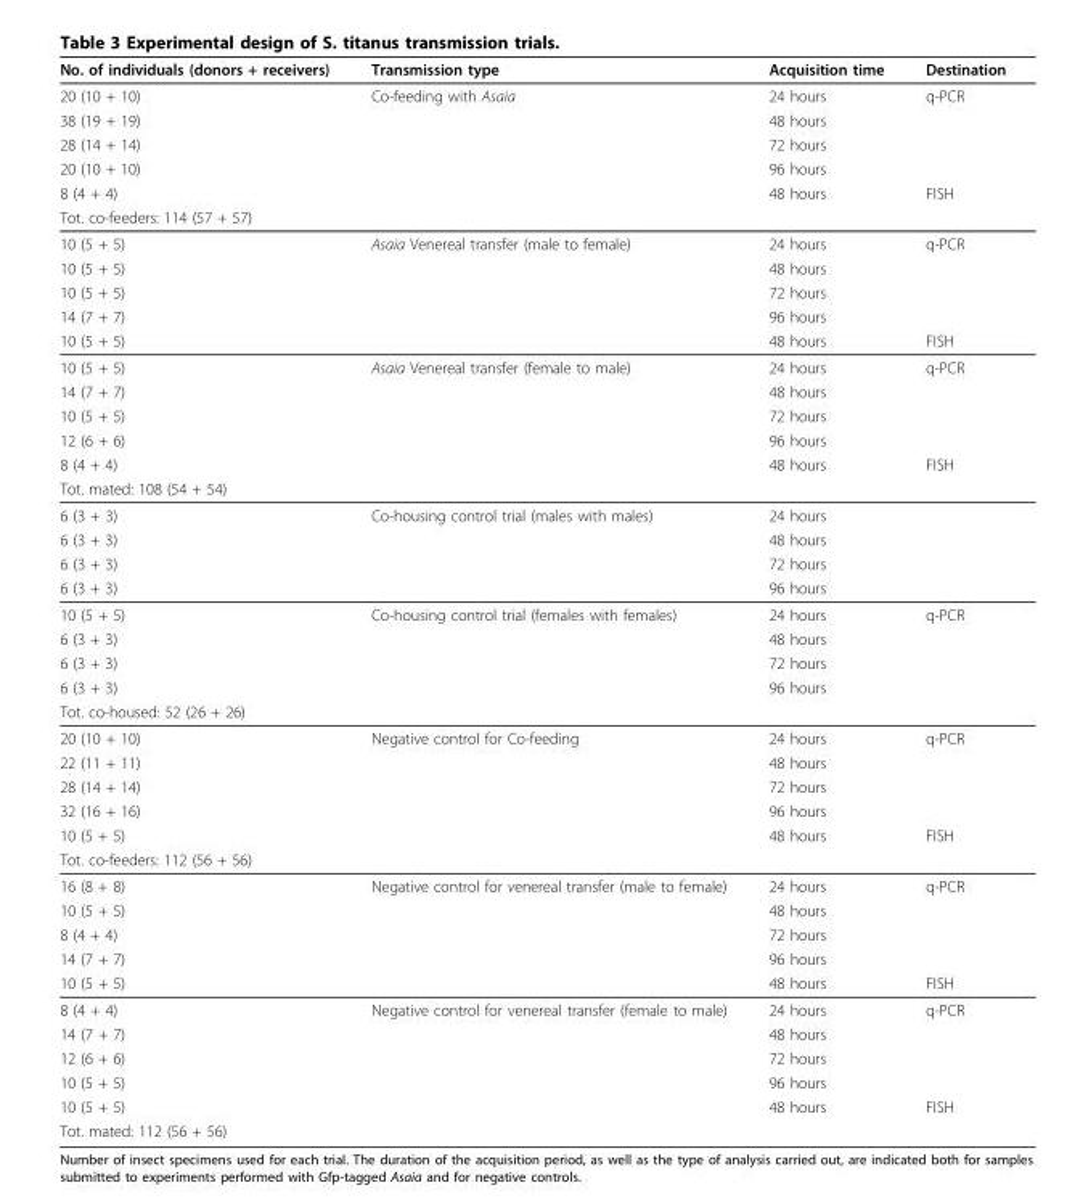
<table><thead><tr><td>No. of individuals (donors + receivers)</td><td>Transmission type</td><td>Acquisition time</td><td>Destination</td></tr></thead><tbody><tr><td>20 (10 + 10)</td><td>Co-feeding with Asaia</td><td>24 hours</td><td>q-PCR</td></tr><tr><td>38 (19 + 19)</td><td></td><td>48 hours</td><td></td></tr><tr><td>28 (14 + 14)</td><td></td><td>72 hours</td><td></td></tr><tr><td>20 (10 + 10)</td><td></td><td>96 hours</td><td></td></tr><tr><td>8 (4 + 4)</td><td></td><td>48 hours</td><td>FISH</td></tr><tr><td colspan="4">Tot. co-feeders: 114 (57 + 57)</td></tr><tr><td>10 (5 + 5)</td><td>Asaia Venereal transfer (male to female)</td><td>24 hours</td><td>q-PCR</td></tr><tr><td>10 (5 + 5)</td><td></td><td>48 hours</td><td></td></tr><tr><td>10 (5 + 5)</td><td></td><td>72 hours</td><td></td></tr><tr><td>14 (7 + 7)</td><td></td><td>96 hours</td><td></td></tr><tr><td>10 (5 + 5)</td><td></td><td>48 hours</td><td>FISH</td></tr><tr><td>10 (5 + 5)</td><td>Asaia Venereal transfer (female to male)</td><td>24 hours</td><td>q-PCR</td></tr><tr><td>14 (7 + 7)</td><td></td><td>48 hours</td><td></td></tr><tr><td>10 (5 + 5)</td><td></td><td>72 hours</td><td></td></tr><tr><td>12 (6 + 6)</td><td></td><td>96 hours</td><td></td></tr><tr><td>8 (4 + 4)</td><td></td><td>48 hours</td><td>FISH</td></tr><tr><td colspan="4">Tot. mated: 108 (54 + 54)</td></tr><tr><td>6 (3 + 3)</td><td>Co-housing control trial (males with males)</td><td>24 hours</td><td></td></tr><tr><td>6 (3 + 3)</td><td></td><td>48 hours</td><td></td></tr><tr><td>6 (3 + 3)</td><td></td><td>72 hours</td><td></td></tr><tr><td>6 (3 + 3)</td><td></td><td>96 hours</td><td></td></tr><tr><td>10 (5 + 5)</td><td>Co-housing control trial (females with females)</td><td>24 hours</td><td>q-PCR</td></tr><tr><td>6 (3 + 3)</td><td></td><td>48 hours</td><td></td></tr><tr><td>6 (3 + 3)</td><td></td><td>72 hours</td><td></td></tr><tr><td>6 (3 + 3)</td><td></td><td>96 hours</td><td></td></tr><tr><td colspan="4">Tot. co-housed: 52 (26 + 26)</td></tr><tr><td>20 (10 + 10)</td><td>Negative control for Co-feeding</td><td>24 hours</td><td>q-PCR</td></tr><tr><td>22 (11 + 11)</td><td></td><td>48 hours</td><td></td></tr><tr><td>28 (14 + 14)</td><td></td><td>72 hours</td><td></td></tr><tr><td>32 (16 + 16)</td><td></td><td>96 hours</td><td></td></tr><tr><td>10 (5 + 5)</td><td></td><td>48 hours</td><td>FISH</td></tr><tr><td colspan="4">Tot. co-feeders: 112 (56 + 56)</td></tr><tr><td>16 (8 + 8)</td><td>Negative control for venereal transfer (male to female)</td><td>24 hours</td><td>q-PCR</td></tr><tr><td>10 (5 + 5)</td><td></td><td>48 hours</td><td></td></tr><tr><td>8 (4 + 4)</td><td></td><td>72 hours</td><td></td></tr><tr><td>14 (7 + 7)</td><td></td><td>96 hours</td><td></td></tr><tr><td>10 (5 + 5)</td><td></td><td>48 hours</td><td>FISH</td></tr><tr><td>8 (4 + 4)</td><td>Negative control for venereal transfer (female to male)</td><td>24 hours</td><td>q-PCR</td></tr><tr><td>14 (7 + 7)</td><td></td><td>48 hours</td><td></td></tr><tr><td>12 (6 + 6)</td><td></td><td>72 hours</td><td></td></tr><tr><td>10 (5 + 5)</td><td></td><td>96 hours</td><td></td></tr><tr><td>10 (5 + 5)</td><td></td><td>48 hours</td><td>FISH</td></tr><tr><td>Tot. mated: 112 (56 + 56)</td><td></td><td></td><td></td></tr></tbody></table>